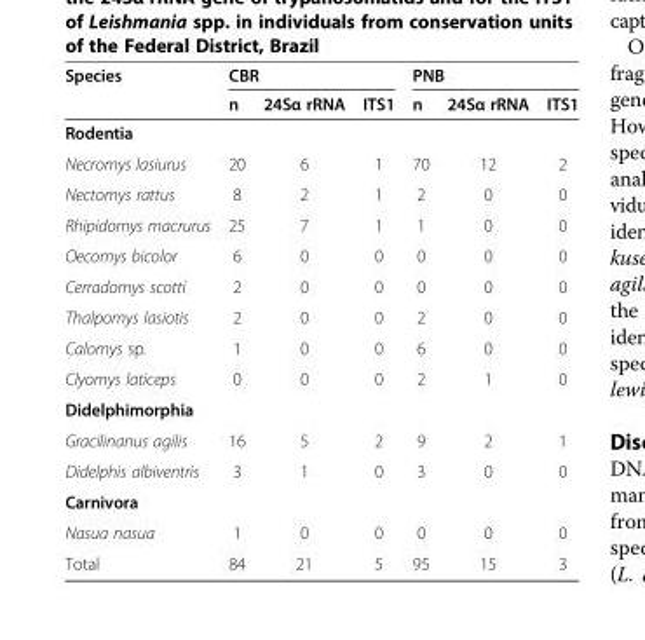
<table><thead><tr><td rowspan="2">Species</td><td colspan="3">CBR</td><td colspan="3">PNB</td></tr><tr><td>n</td><td>24Sα rRNA</td><td>ITS1</td><td>n</td><td>24Sα rRNA</td><td>ITS1</td></tr></thead><tbody><tr><td colspan="7">Rodentia</td></tr><tr><td>Necromys lasiurus</td><td>20</td><td>6</td><td>1</td><td>70</td><td>12</td><td>2</td></tr><tr><td>Nectomys rattus</td><td>8</td><td>2</td><td>1</td><td>2</td><td>0</td><td>0</td></tr><tr><td>Rhipidomys macrurus</td><td>25</td><td>7</td><td>1</td><td>1</td><td>0</td><td>0</td></tr><tr><td>Oecomys bicolor</td><td>6</td><td>0</td><td>0</td><td>0</td><td>0</td><td>0</td></tr><tr><td>Cerradomys scotti</td><td>2</td><td>0</td><td>0</td><td>0</td><td>0</td><td>0</td></tr><tr><td>Thalpomys lasiotis</td><td>2</td><td>0</td><td>0</td><td>2</td><td>0</td><td>0</td></tr><tr><td>Calomys sp.</td><td>1</td><td>0</td><td>0</td><td>6</td><td>0</td><td>0</td></tr><tr><td>Clyomys laticeps</td><td>0</td><td>0</td><td>0</td><td>2</td><td>1</td><td>0</td></tr><tr><td colspan="7">Didelphimorphia</td></tr><tr><td>Gracilinanus agilis</td><td>16</td><td>5</td><td>2</td><td>9</td><td>2</td><td>1</td></tr><tr><td>Didelphis albiventris</td><td>3</td><td>1</td><td>0</td><td>3</td><td>0</td><td>0</td></tr><tr><td colspan="7">Carnivora</td></tr><tr><td>Nasua nasua</td><td>1</td><td>0</td><td>0</td><td>0</td><td>0</td><td>0</td></tr><tr><td>Total</td><td>84</td><td>21</td><td>5</td><td>95</td><td>15</td><td>3</td></tr></tbody></table>